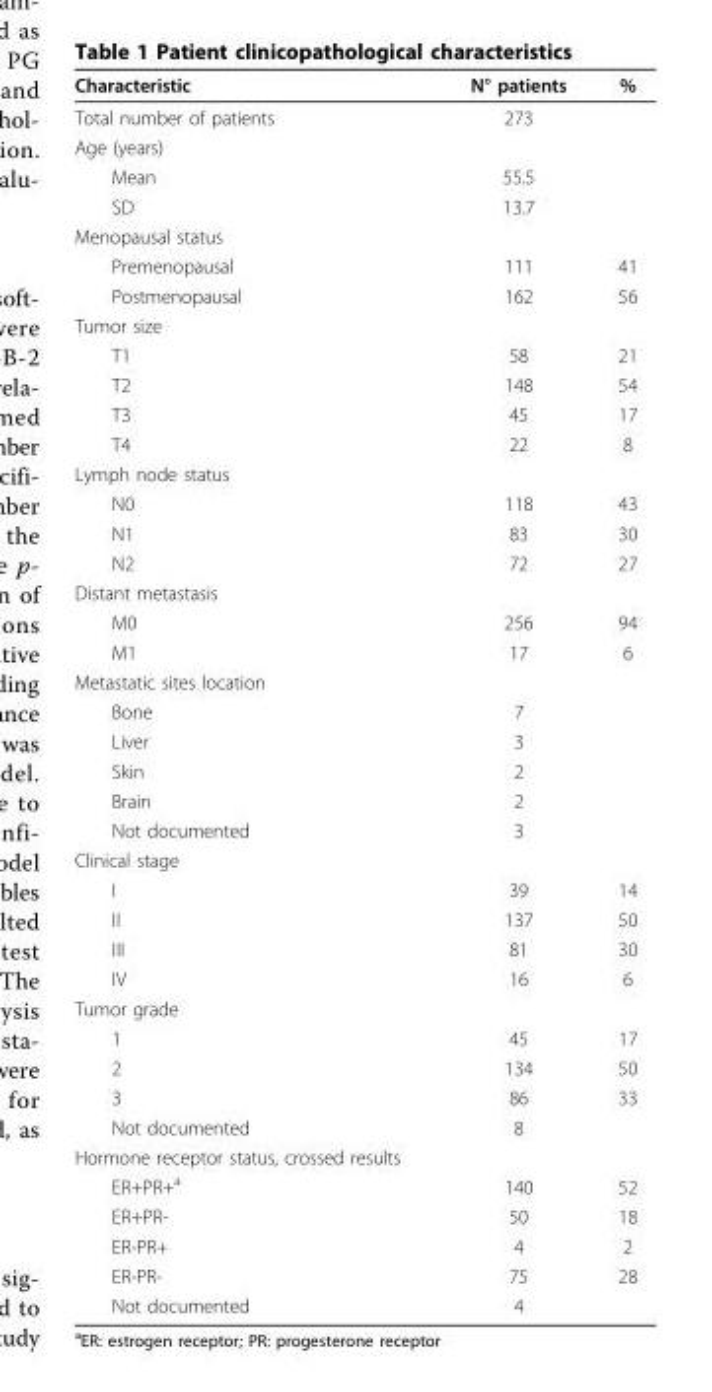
<table><thead><tr><td>Characteristic</td><td>N° patients</td><td>%</td></tr></thead><tbody><tr><td>Total number of patients</td><td>273</td><td></td></tr><tr><td colspan="3">Age (years)</td></tr><tr><td>Mean</td><td>55.5</td><td></td></tr><tr><td>SD</td><td>13.7</td><td></td></tr><tr><td colspan="3">Menopausal status</td></tr><tr><td>Premenopausal</td><td>111</td><td>41</td></tr><tr><td>Postmenopausal</td><td>162</td><td>56</td></tr><tr><td colspan="3">Tumor size</td></tr><tr><td>T1</td><td>58</td><td>21</td></tr><tr><td>T2</td><td>148</td><td>54</td></tr><tr><td>T3</td><td>45</td><td>17</td></tr><tr><td>T4</td><td>22</td><td>8</td></tr><tr><td colspan="3">Lymph node status</td></tr><tr><td>N0</td><td>118</td><td>43</td></tr><tr><td>N1</td><td>83</td><td>30</td></tr><tr><td>N2</td><td>72</td><td>27</td></tr><tr><td colspan="3">Distant metastasis</td></tr><tr><td>M0</td><td>256</td><td>94</td></tr><tr><td>M1</td><td>17</td><td>6</td></tr><tr><td colspan="3">Metastatic sites location</td></tr><tr><td>Bone</td><td>7</td><td></td></tr><tr><td>Liver</td><td>3</td><td></td></tr><tr><td>Skin</td><td>2</td><td></td></tr><tr><td>Brain</td><td>2</td><td></td></tr><tr><td>Not documented</td><td>3</td><td></td></tr><tr><td colspan="3">Clinical stage</td></tr><tr><td>I</td><td>39</td><td>14</td></tr><tr><td>II</td><td>137</td><td>50</td></tr><tr><td>III</td><td>81</td><td>30</td></tr><tr><td>IV</td><td>16</td><td>6</td></tr><tr><td colspan="3">Tumor grade</td></tr><tr><td>1</td><td>45</td><td>17</td></tr><tr><td>2</td><td>134</td><td>50</td></tr><tr><td>3</td><td>86</td><td>33</td></tr><tr><td>Not documented</td><td>8</td><td></td></tr><tr><td colspan="3">Hormone receptor status, crossed results</td></tr><tr><td>ER+PR+<sup>a</sup></td><td>140</td><td>52</td></tr><tr><td>ER+PR-</td><td>50</td><td>18</td></tr><tr><td>ER-PR+</td><td>4</td><td>2</td></tr><tr><td>ER-PR-</td><td>75</td><td>28</td></tr><tr><td>Not documented</td><td>4</td><td></td></tr></tbody></table>